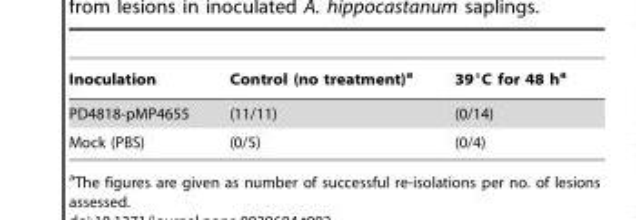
<table><thead><tr><td>Inoculation</td><td>Control (no treatment)<sup>a</sup></td><td>39°C for 48 h<sup>a</sup></td></tr></thead><tbody><tr><td>PD4818-pMP4655</td><td>(11/11)</td><td>(0/14)</td></tr><tr><td>Mock (PBS)</td><td>(0/5)</td><td>(0/4)</td></tr></tbody></table>